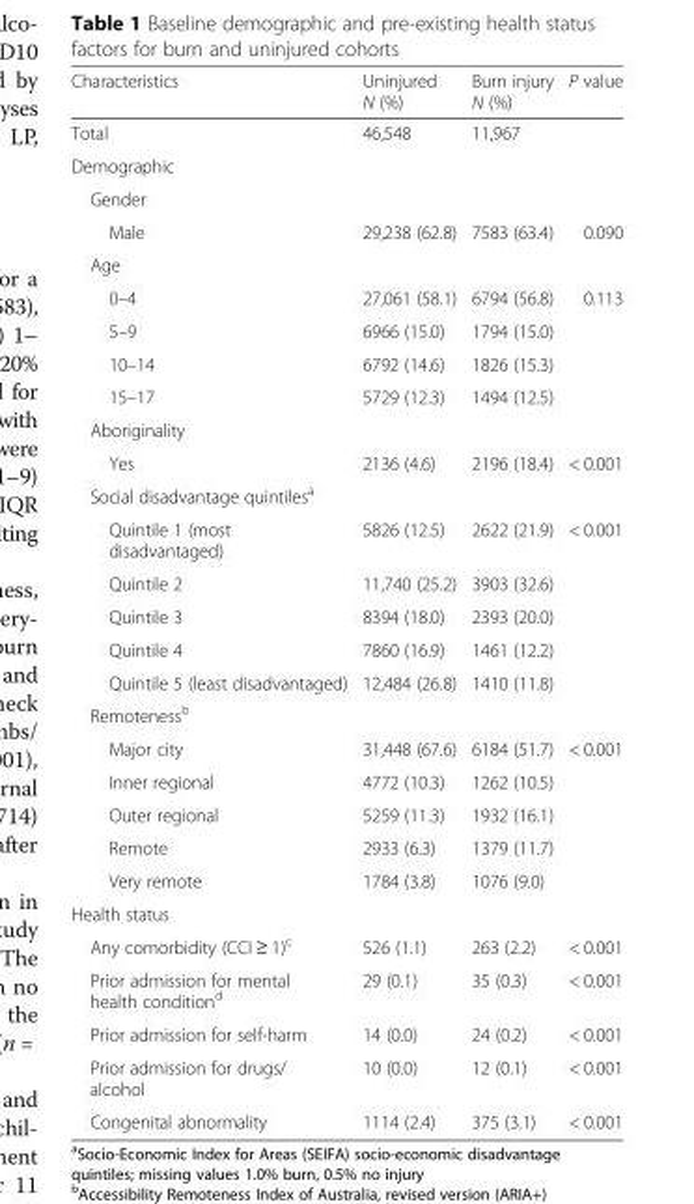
<table><thead><tr><td>Characteristics</td><td>Uninjured N (%)</td><td>Burn injury N (%)</td><td>P value</td></tr></thead><tbody><tr><td>Total</td><td>46,548</td><td>11,967</td><td></td></tr><tr><td colspan="4">Demographic</td></tr><tr><td colspan="4">Gender</td></tr><tr><td>Male</td><td>29,238 (62.8)</td><td>7583 (63.4)</td><td>0.090</td></tr><tr><td colspan="4">Age</td></tr><tr><td>0–4</td><td>27,061 (58.1)</td><td>6794 (56.8)</td><td>0.113</td></tr><tr><td>5–9</td><td>6966 (15.0)</td><td>1794 (15.0)</td><td></td></tr><tr><td>10–14</td><td>6792 (14.6)</td><td>1826 (15.3)</td><td></td></tr><tr><td>15–17</td><td>5729 (12.3)</td><td>1494 (12.5)</td><td></td></tr><tr><td colspan="4">Aboriginality</td></tr><tr><td>Yes</td><td>2136 (4.6)</td><td>2196 (18.4)</td><td>&lt; 0.001</td></tr><tr><td colspan="4">Social disadvantage quintiles<sup>a</sup></td></tr><tr><td>Quintile 1 (most disadvantaged)</td><td>5826 (12.5)</td><td>2622 (21.9)</td><td>&lt; 0.001</td></tr><tr><td>Quintile 2</td><td>11,740 (25.2)</td><td>3903 (32.6)</td><td></td></tr><tr><td>Quintile 3</td><td>8394 (18.0)</td><td>2393 (20.0)</td><td></td></tr><tr><td>Quintile 4</td><td>7860 (16.9)</td><td>1461 (12.2)</td><td></td></tr><tr><td>Quintile 5 (least disadvantaged)</td><td>12,484 (26.8)</td><td>1410 (11.8)</td><td></td></tr><tr><td colspan="4">Remoteness<sup>b</sup></td></tr><tr><td>Major city</td><td>31,448 (67.6)</td><td>6184 (51.7)</td><td>&lt; 0.001</td></tr><tr><td>Inner regional</td><td>4772 (10.3)</td><td>1262 (10.5)</td><td></td></tr><tr><td>Outer regional</td><td>5259 (11.3)</td><td>1932 (16.1)</td><td></td></tr><tr><td>Remote</td><td>2933 (6.3)</td><td>1379 (11.7)</td><td></td></tr><tr><td>Very remote</td><td>1784 (3.8)</td><td>1076 (9.0)</td><td></td></tr><tr><td colspan="4">Health status</td></tr><tr><td>Any comorbidity (CCI ≥ 1)<sup>c</sup></td><td>526 (1.1)</td><td>263 (2.2)</td><td>&lt; 0.001</td></tr><tr><td>Prior admission for mental health condition<sup>d</sup></td><td>29 (0.1)</td><td>35 (0.3)</td><td>&lt; 0.001</td></tr><tr><td>Prior admission for self-harm</td><td>14 (0.0)</td><td>24 (0.2)</td><td>&lt; 0.001</td></tr><tr><td>Prior admission for drugs/ alcohol</td><td>10 (0.0)</td><td>12 (0.1)</td><td>&lt; 0.001</td></tr><tr><td>Congenital abnormality</td><td>1114 (2.4)</td><td>375 (3.1)</td><td>&lt; 0.001</td></tr></tbody></table>